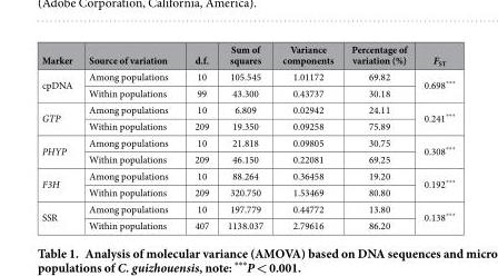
<table><thead><tr><td>Marker</td><td>Source of variation</td><td>d.f.</td><td>Sum of squares</td><td>Variance components</td><td>Percentage of variation (%)</td><td>F<sub>ST</sub></td></tr></thead><tbody><tr><td rowspan="2">cpDNA</td><td>Among populations</td><td>10</td><td>105.545</td><td>1.01172</td><td>69.82</td><td rowspan="2">0.698***</td></tr><tr><td>Within populations</td><td>99</td><td>43.300</td><td>0.43737</td><td>30.18</td></tr><tr><td rowspan="2">GTP</td><td>Among populations</td><td>10</td><td>6.809</td><td>0.02942</td><td>24.11</td><td rowspan="2">0.241***</td></tr><tr><td>Within populations</td><td>209</td><td>19.350</td><td>0.09258</td><td>75.89</td></tr><tr><td rowspan="2">PHYP</td><td>Among populations</td><td>10</td><td>21.818</td><td>0.09805</td><td>30.75</td><td rowspan="2">0.308***</td></tr><tr><td>Within populations</td><td>209</td><td>46.150</td><td>0.22081</td><td>69.25</td></tr><tr><td rowspan="2">F3H</td><td>Among populations</td><td>10</td><td>88.264</td><td>0.36458</td><td>19.20</td><td rowspan="2">0.192***</td></tr><tr><td>Within populations</td><td>209</td><td>320.750</td><td>1.53469</td><td>80.80</td></tr><tr><td rowspan="2">SSR</td><td>Among populations</td><td>10</td><td>197.779</td><td>0.44772</td><td>13.80</td><td rowspan="2">0.138***</td></tr><tr><td>Within populations</td><td>407</td><td>1138.037</td><td>2.79616</td><td>86.20</td></tr></tbody></table>